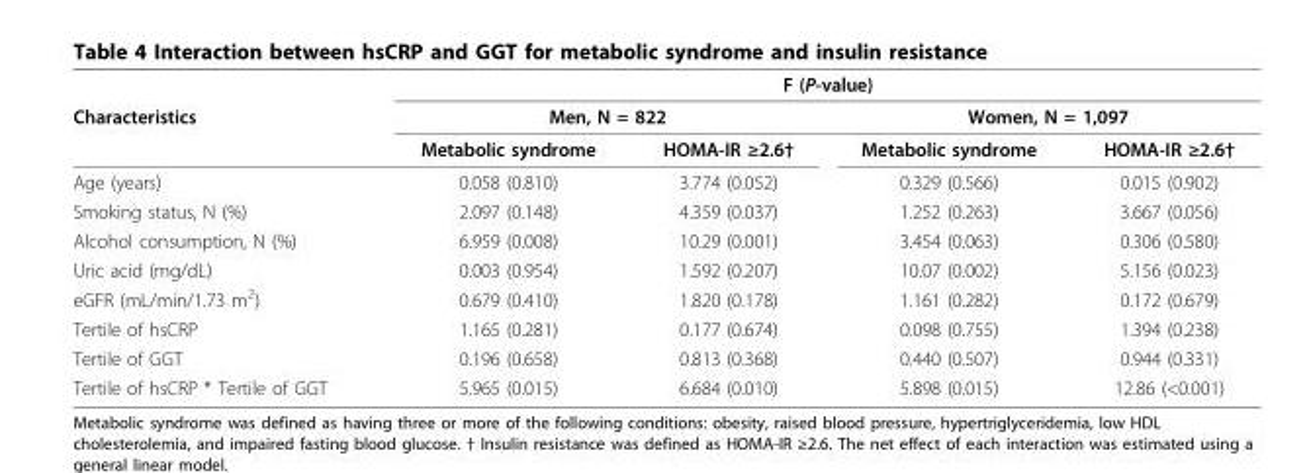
<table><thead><tr><td rowspan="3">Characteristics</td><td colspan="4">F (P-value)</td></tr><tr><td colspan="2">Men, N = 822</td><td colspan="2">Women, N = 1,097</td></tr><tr><td>Metabolic syndrome</td><td>HOMA-IR ≥2.6†</td><td>Metabolic syndrome</td><td>HOMA-IR ≥2.6†</td></tr></thead><tbody><tr><td>Age (years)</td><td>0.058 (0.810)</td><td>3.774 (0.052)</td><td>0.329 (0.566)</td><td>0.015 (0.902)</td></tr><tr><td>Smoking status, N (%)</td><td>2.097 (0.148)</td><td>4.359 (0.037)</td><td>1.252 (0.263)</td><td>3.667 (0.056)</td></tr><tr><td>Alcohol consumption, N (%)</td><td>6.959 (0.008)</td><td>10.29 (0.001)</td><td>3.454 (0.063)</td><td>0.306 (0.580)</td></tr><tr><td>Uric acid (mg/dL)</td><td>0.003 (0.954)</td><td>1.592 (0.207)</td><td>10.07 (0.002)</td><td>5.156 (0.023)</td></tr><tr><td>eGFR (mL/min/1.73 m<sup>2</sup>)</td><td>0.679 (0.410)</td><td>1.820 (0.178)</td><td>1.161 (0.282)</td><td>0.172 (0.679)</td></tr><tr><td>Tertile of hsCRP</td><td>1.165 (0.281)</td><td>0.177 (0.674)</td><td>0.098 (0.755)</td><td>1.394 (0.238)</td></tr><tr><td>Tertile of GGT</td><td>0.196 (0.658)</td><td>0.813 (0.368)</td><td>0.440 (0.507)</td><td>0.944 (0.331)</td></tr><tr><td>Tertile of hsCRP * Tertile of GGT</td><td>5.965 (0.015)</td><td>6.684 (0.010)</td><td>5.898 (0.015)</td><td>12.86 (&lt;0.001)</td></tr></tbody></table>